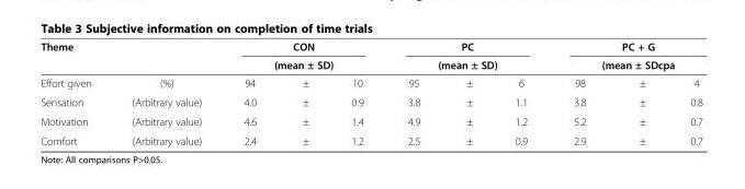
<table><thead><tr><td colspan="2">Theme</td><td rowspan="2" colspan="3">CON (mean ± SD)</td><td rowspan="2" colspan="3">PC (mean ± SD)</td><td rowspan="2" colspan="3">PC + G (mean ± SDcpa</td></tr><tr><td rowspan="2">Effort given</td><td rowspan="2">(%)</td></tr><tr><td>94</td><td>±</td><td>10</td><td>95</td><td>±</td><td>6</td><td>98</td><td>±</td><td>4</td></tr></thead><tbody><tr><td>Sensation</td><td>(Arbitrary value)</td><td>4.0</td><td>±</td><td>0.9</td><td>3.8</td><td>±</td><td>1.1</td><td>3.8</td><td>±</td><td>0.8</td></tr><tr><td>Motivation</td><td>(Arbitrary value)</td><td>4.6</td><td>±</td><td>1.4</td><td>4.9</td><td>±</td><td>1.2</td><td>5.2</td><td>±</td><td>0.7</td></tr><tr><td>Comfort</td><td>(Arbitrary value)</td><td>2.4</td><td>±</td><td>1.2</td><td>2.5</td><td>±</td><td>0.9</td><td>2.9</td><td>±</td><td>0.7</td></tr></tbody></table>